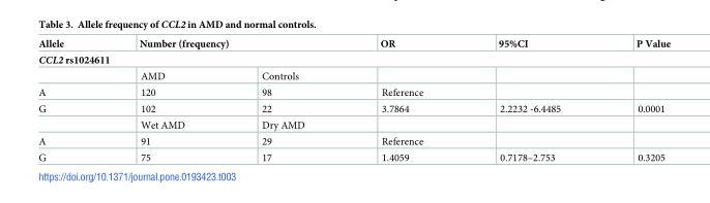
<table><thead><tr><td>Allele</td><td colspan="2">Number (frequency)</td><td>OR</td><td>95%CI</td><td>P Value</td></tr><tr><td colspan="6">CCL2 rs1024611</td></tr><tr><td></td><td>AMD</td><td>Controls</td><td></td><td></td><td></td></tr></thead><tbody><tr><td>A</td><td>120</td><td>98</td><td>Reference</td><td></td><td></td></tr><tr><td rowspan="2">G</td><td>102</td><td>22</td><td>3.7864</td><td>2.2232 -6.4485</td><td>0.0001</td></tr><tr><td>Wet AMD</td><td>Dry AMD</td><td></td><td></td><td></td></tr><tr><td>A</td><td>91</td><td>29</td><td>Reference</td><td></td><td></td></tr><tr><td>G</td><td>75</td><td>17</td><td>1.4059</td><td>0.7178–2.753</td><td>0.3205</td></tr></tbody></table>